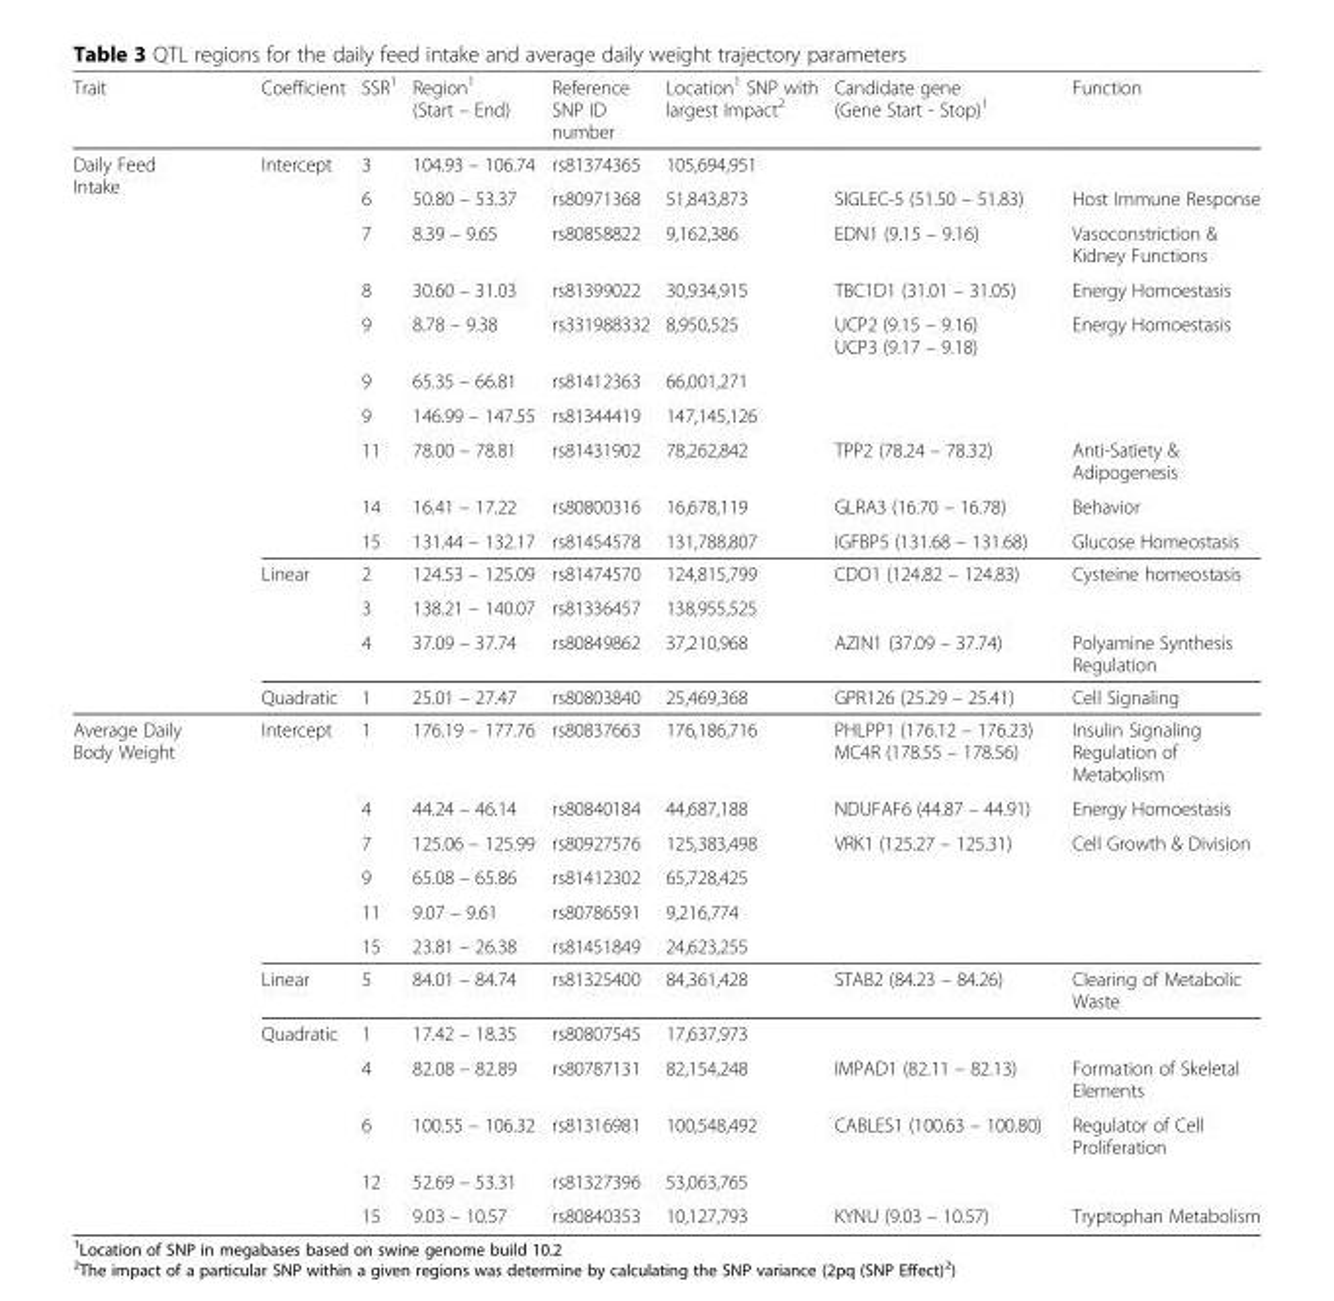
<table><thead><tr><td>Trait</td><td>Coefficient</td><td>SSR<sup>1</sup></td><td>Region<sup>1</sup> (Start – End)</td><td>Reference SNP ID number</td><td>Location<sup>1</sup> SNP with largest Impact<sup>2</sup></td><td>Candidate gene (Gene Start - Stop)<sup>1</sup></td><td>Function</td></tr></thead><tbody><tr><td rowspan="14">Daily Feed Intake</td><td rowspan="10">Intercept</td><td>3</td><td>104.93 – 106.74</td><td>rs81374365</td><td>105,694,951</td><td></td><td></td></tr><tr><td>6</td><td>50.80 – 53.37</td><td>rs80971368</td><td>51,843,873</td><td>SIGLEC-5 (51.50 – 51.83)</td><td>Host Immune Response</td></tr><tr><td>7</td><td>8.39 – 9.65</td><td>rs80858822</td><td>9,162,386</td><td>EDN1 (9.15 – 9.16)</td><td>Vasoconstriction &amp; Kidney Functions</td></tr><tr><td>8</td><td>30.60 – 31.03</td><td>rs81399022</td><td>30,934,915</td><td>TBC1D1 (31.01 – 31.05)</td><td>Energy Homoestasis</td></tr><tr><td>9</td><td>8.78 – 9.38</td><td>rs331988332</td><td>8,950,525</td><td>UCP2 (9.15 – 9.16) UCP3 (9.17 – 9.18)</td><td>Energy Homoestasis</td></tr><tr><td>9</td><td>65.35 – 66.81</td><td>rs81412363</td><td>66,001,271</td><td></td><td></td></tr><tr><td>9</td><td>146.99 – 147.55</td><td>rs81344419</td><td>147,145,126</td><td></td><td></td></tr><tr><td>11</td><td>78.00 – 78.81</td><td>rs81431902</td><td>78,262,842</td><td>TPP2 (78.24 – 78.32)</td><td>Anti-Satiety &amp; Adipogenesis</td></tr><tr><td>14</td><td>16.41 – 17.22</td><td>rs80800316</td><td>16,678,119</td><td>GLRA3 (16.70 – 16.78)</td><td>Behavior</td></tr><tr><td>15</td><td>131.44 – 132.17</td><td>rs81454578</td><td>131,788,807</td><td>IGFBP5 (131.68 – 131.68)</td><td>Glucose Homeostasis</td></tr><tr><td rowspan="3">Linear</td><td>2</td><td>124.53 – 125.09</td><td>rs81474570</td><td>124,815,799</td><td>CDO1 (124.82 – 124.83)</td><td>Cysteine homeostasis</td></tr><tr><td>3</td><td>138.21 – 140.07</td><td>rs81336457</td><td>138,955,525</td><td></td><td></td></tr><tr><td>4</td><td>37.09 – 37.74</td><td>rs80849862</td><td>37,210,968</td><td>AZIN1 (37.09 – 37.74)</td><td>Polyamine Synthesis Regulation</td></tr><tr><td>Quadratic</td><td>1</td><td>25.01 – 27.47</td><td>rs80803840</td><td>25,469,368</td><td>GPR126 (25.29 – 25.41)</td><td>Cell Signaling</td></tr><tr><td rowspan="12">Average Daily Body Weight</td><td rowspan="6">Intercept</td><td>1</td><td>176.19 – 177.76</td><td>rs80837663</td><td>176,186,716</td><td>PHLPP1 (176.12 – 176.23) MC4R (178.55 – 178.56)</td><td>Insulin Signaling Regulation of Metabolism</td></tr><tr><td>4</td><td>44.24 – 46.14</td><td>rs80840184</td><td>44,687,188</td><td>NDUFAF6 (44.87 – 44.91)</td><td>Energy Homoestasis</td></tr><tr><td>7</td><td>125.06 – 125.99</td><td>rs80927576</td><td>125,383,498</td><td>VRK1 (125.27 – 125.31)</td><td>Cell Growth &amp; Division</td></tr><tr><td>9</td><td>65.08 – 65.86</td><td>rs81412302</td><td>65,728,425</td><td></td><td></td></tr><tr><td>11</td><td>9.07 – 9.61</td><td>rs80786591</td><td>9,216,774</td><td></td><td></td></tr><tr><td>15</td><td>23.81 – 26.38</td><td>rs81451849</td><td>24,623,255</td><td></td><td></td></tr><tr><td>Linear</td><td>5</td><td>84.01 – 84.74</td><td>rs81325400</td><td>84,361,428</td><td>STAB2 (84.23 – 84.26)</td><td>Clearing of Metabolic Waste</td></tr><tr><td rowspan="5">Quadratic</td><td>1</td><td>17.42 – 18.35</td><td>rs80807545</td><td>17,637,973</td><td></td><td></td></tr><tr><td>4</td><td>82.08 – 82.89</td><td>rs80787131</td><td>82,154,248</td><td>IMPAD1 (82.11 – 82.13)</td><td>Formation of Skeletal Elements</td></tr><tr><td>6</td><td>100.55 – 106.32</td><td>rs81316981</td><td>100,548,492</td><td>CABLES1 (100.63 – 100.80)</td><td>Regulator of Cell Proliferation</td></tr><tr><td>12</td><td>52.69 – 53.31</td><td>rs81327396</td><td>53,063,765</td><td></td><td></td></tr><tr><td>15</td><td>9.03 – 10.57</td><td>rs80840353</td><td>10,127,793</td><td>KYNU (9.03 – 10.57)</td><td>Tryptophan Metabolism</td></tr></tbody></table>